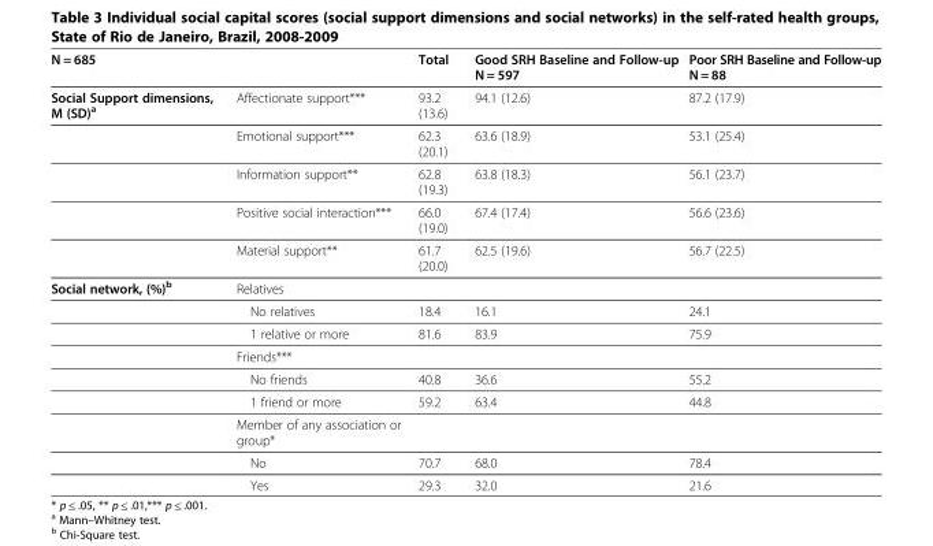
<table><thead><tr><td>N = 685</td><td></td><td>Total</td><td>Good SRH Baseline and Follow-up N = 597</td><td>Poor SRH Baseline and Follow-up N = 88</td></tr></thead><tbody><tr><td rowspan="5">Social Support dimensions, M (SD)<sup>a</sup></td><td>Affectionate support***</td><td>93.2 (13.6)</td><td>94.1 (12.6)</td><td>87.2 (17.9)</td></tr><tr><td>Emotional support***</td><td>62.3 (20.1)</td><td>63.6 (18.9)</td><td>53.1 (25.4)</td></tr><tr><td>Information support**</td><td>62.8 (19.3)</td><td>63.8 (18.3)</td><td>56.1 (23.7)</td></tr><tr><td>Positive social interaction***</td><td>66.0 (19.0)</td><td>67.4 (17.4)</td><td>56.6 (23.6)</td></tr><tr><td>Material support**</td><td>61.7 (20.0)</td><td>62.5 (19.6)</td><td>56.7 (22.5)</td></tr><tr><td rowspan="9">Social network, (%)<sup>b</sup></td><td>Relatives</td><td></td><td></td><td></td></tr><tr><td>No relatives</td><td>18.4</td><td>16.1</td><td>24.1</td></tr><tr><td>1 relative or more</td><td>81.6</td><td>83.9</td><td>75.9</td></tr><tr><td>Friends***</td><td></td><td></td><td></td></tr><tr><td>No friends</td><td>40.8</td><td>36.6</td><td>55.2</td></tr><tr><td>1 friend or more</td><td>59.2</td><td>63.4</td><td>44.8</td></tr><tr><td>Member of any association or group*</td><td></td><td></td><td></td></tr><tr><td>No</td><td>70.7</td><td>68.0</td><td>78.4</td></tr><tr><td>Yes</td><td>29.3</td><td>32.0</td><td>21.6</td></tr></tbody></table>